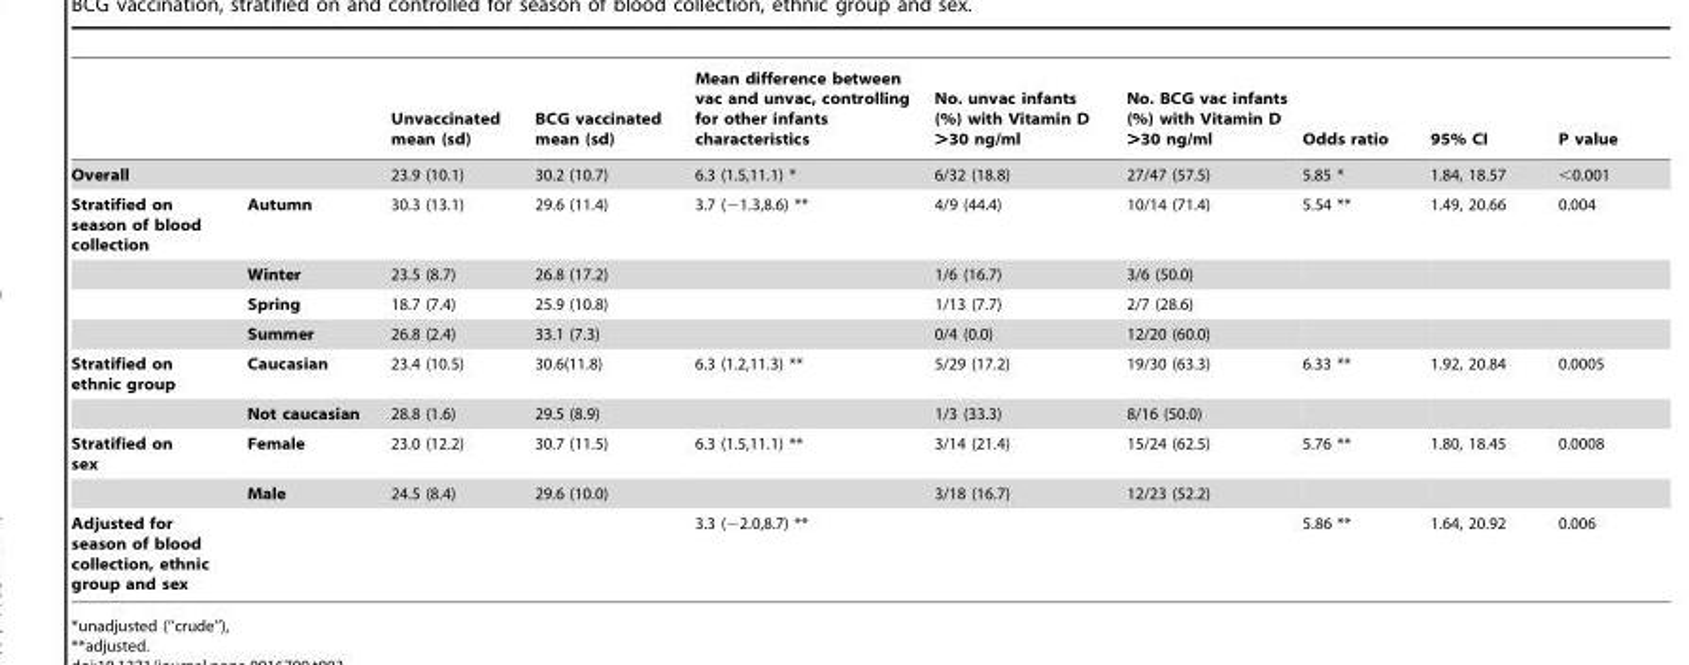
<table><thead><tr><td></td><td></td><td>Unvaccinated mean (sd)</td><td>BCG vaccinated mean (sd)</td><td>Mean difference between vac and unvac, controlling for other infants characteristics</td><td>No. unvac infants (%) with Vitamin D &gt;30 ng/ml</td><td>No. BCG vac infants (%) with Vitamin D &gt;30 ng/ml</td><td>Odds ratio</td><td>95% CI</td><td>P value</td></tr></thead><tbody><tr><td>Overall</td><td></td><td>23.9 (10.1)</td><td>30.2 (10.7)</td><td>6.3 (1.5,11.1) *</td><td>6/32 (18.8)</td><td>27/47 (57.5)</td><td>5.85 *</td><td>1.84, 18.57</td><td>&lt;0.001</td></tr><tr><td rowspan="4">Stratified on season of blood collection</td><td>Autumn</td><td>30.3 (13.1)</td><td>29.6 (11.4)</td><td>3.7 (−1.3,8.6) **</td><td>4/9 (44.4)</td><td>10/14 (71.4)</td><td>5.54 **</td><td>1.49, 20.66</td><td>0.004</td></tr><tr><td>Winter</td><td>23.5 (8.7)</td><td>26.8 (17.2)</td><td></td><td>1/6 (16.7)</td><td>3/6 (50.0)</td><td></td><td></td><td></td></tr><tr><td>Spring</td><td>18.7 (7.4)</td><td>25.9 (10.8)</td><td></td><td>1/13 (7.7)</td><td>2/7 (28.6)</td><td></td><td></td><td></td></tr><tr><td>Summer</td><td>26.8 (2.4)</td><td>33.1 (7.3)</td><td></td><td>0/4 (0.0)</td><td>12/20 (60.0)</td><td></td><td></td><td></td></tr><tr><td rowspan="2">Stratified on ethnic group</td><td>Caucasian</td><td>23.4 (10.5)</td><td>30.6(11.8)</td><td>6.3 (1.2,11.3) **</td><td>5/29 (17.2)</td><td>19/30 (63.3)</td><td>6.33 **</td><td>1.92, 20.84</td><td>0.0005</td></tr><tr><td>Not caucasian</td><td>28.8 (1.6)</td><td>29.5 (8.9)</td><td></td><td>1/3 (33.3)</td><td>8/16 (50.0)</td><td></td><td></td><td></td></tr><tr><td rowspan="2">Stratified on sex</td><td>Female</td><td>23.0 (12.2)</td><td>30.7 (11.5)</td><td>6.3 (1.5,11.1) **</td><td>3/14 (21.4)</td><td>15/24 (62.5)</td><td>5.76 **</td><td>1.80, 18.45</td><td>0.0008</td></tr><tr><td>Male</td><td>24.5 (8.4)</td><td>29.6 (10.0)</td><td></td><td>3/18 (16.7)</td><td>12/23 (52.2)</td><td></td><td></td><td></td></tr><tr><td>Adjusted for season of blood collection, ethnic group and sex</td><td></td><td></td><td></td><td>3.3 (−2.0,8.7) **</td><td></td><td></td><td>5.86 **</td><td>1.64, 20.92</td><td>0.006</td></tr></tbody></table>